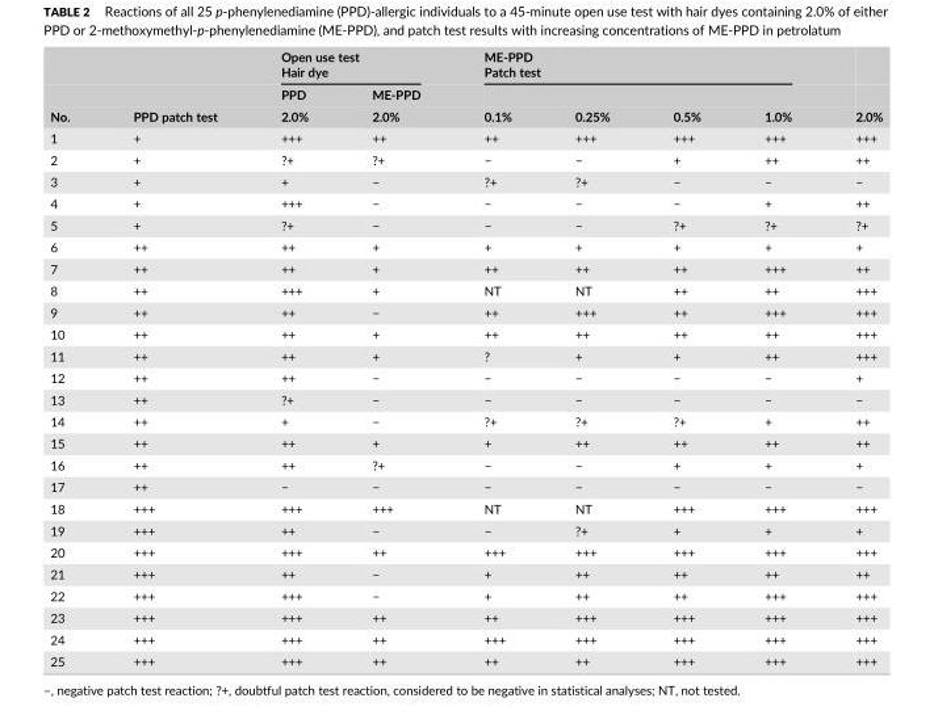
<table><thead><tr><td rowspan="3">No.</td><td rowspan="3">PPD patch test</td><td colspan="2">Open use test Hair dye</td><td colspan="4">ME-PPD Patch test</td><td rowspan="3">2.0%</td></tr><tr><td rowspan="2">PPD 2.0%</td><td rowspan="2">ME-PPD 2.0%</td><td rowspan="2">0.1%</td><td rowspan="2">0.25%</td><td rowspan="2">0.5%</td><td rowspan="2">1.0%</td></tr><tr></tr></thead><tbody><tr><td>1</td><td>+</td><td>+++</td><td>++</td><td>++</td><td>+++</td><td>+++</td><td>+++</td><td>+++</td></tr><tr><td>2</td><td>+</td><td>?+</td><td>?+</td><td>−</td><td>−</td><td>+</td><td>++</td><td>++</td></tr><tr><td>3</td><td>+</td><td>+</td><td>−</td><td>?+</td><td>?+</td><td>−</td><td>−</td><td>−</td></tr><tr><td>4</td><td>+</td><td>+++</td><td>−</td><td>−</td><td>−</td><td>−</td><td>+</td><td>++</td></tr><tr><td>5</td><td>+</td><td>?+</td><td>−</td><td>−</td><td>−</td><td>?+</td><td>?+</td><td>?+</td></tr><tr><td>6</td><td>++</td><td>++</td><td>+</td><td>+</td><td>+</td><td>+</td><td>+</td><td>+</td></tr><tr><td>7</td><td>++</td><td>++</td><td>+</td><td>++</td><td>++</td><td>++</td><td>+++</td><td>++</td></tr><tr><td>8</td><td>++</td><td>+++</td><td>+</td><td>NT</td><td>NT</td><td>++</td><td>++</td><td>+++</td></tr><tr><td>9</td><td>++</td><td>++</td><td>−</td><td>++</td><td>+++</td><td>++</td><td>+++</td><td>+++</td></tr><tr><td>10</td><td>++</td><td>++</td><td>+</td><td>++</td><td>++</td><td>++</td><td>++</td><td>+++</td></tr><tr><td>11</td><td>++</td><td>++</td><td>+</td><td>?</td><td>+</td><td>+</td><td>++</td><td>+++</td></tr><tr><td>12</td><td>++</td><td>++</td><td>−</td><td>−</td><td>−</td><td>−</td><td>−</td><td>+</td></tr><tr><td>13</td><td>++</td><td>?+</td><td>−</td><td>−</td><td>−</td><td>−</td><td>−</td><td>−</td></tr><tr><td>14</td><td>++</td><td>+</td><td>−</td><td>?+</td><td>?+</td><td>?+</td><td>+</td><td>++</td></tr><tr><td>15</td><td>++</td><td>++</td><td>+</td><td>+</td><td>++</td><td>++</td><td>++</td><td>++</td></tr><tr><td>16</td><td>++</td><td>++</td><td>?+</td><td>−</td><td>−</td><td>+</td><td>+</td><td>+</td></tr><tr><td>17</td><td>++</td><td>−</td><td>−</td><td>−</td><td>−</td><td>−</td><td>−</td><td>−</td></tr><tr><td>18</td><td>+++</td><td>+++</td><td>+++</td><td>NT</td><td>NT</td><td>+++</td><td>+++</td><td>+++</td></tr><tr><td>19</td><td>+++</td><td>++</td><td>−</td><td>−</td><td>?+</td><td>+</td><td>+</td><td>+</td></tr><tr><td>20</td><td>+++</td><td>+++</td><td>++</td><td>+++</td><td>+++</td><td>+++</td><td>+++</td><td>+++</td></tr><tr><td>21</td><td>+++</td><td>++</td><td>−</td><td>+</td><td>++</td><td>++</td><td>++</td><td>++</td></tr><tr><td>22</td><td>+++</td><td>+++</td><td>−</td><td>+</td><td>++</td><td>++</td><td>+++</td><td>+++</td></tr><tr><td>23</td><td>+++</td><td>+++</td><td>++</td><td>++</td><td>+++</td><td>+++</td><td>+++</td><td>+++</td></tr><tr><td>24</td><td>+++</td><td>+++</td><td>++</td><td>+++</td><td>+++</td><td>+++</td><td>+++</td><td>+++</td></tr><tr><td>25</td><td>+++</td><td>+++</td><td>++</td><td>++</td><td>++</td><td>+++</td><td>+++</td><td>+++</td></tr></tbody></table>